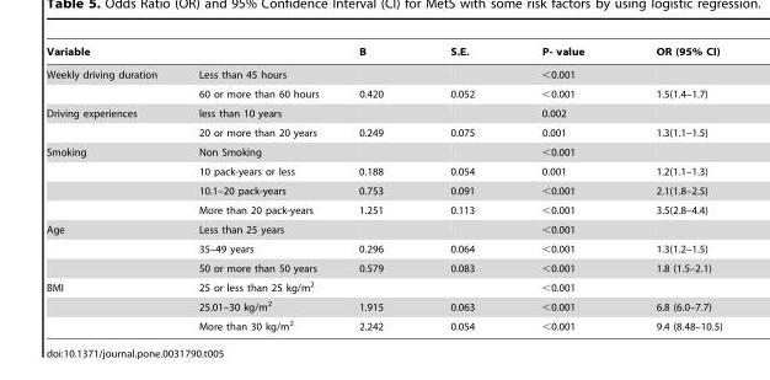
<table><thead><tr><td>Variable</td><td></td><td>B</td><td>S.E.</td><td>P- value</td><td>OR (95% CI)</td></tr></thead><tbody><tr><td rowspan="2">Weekly driving duration</td><td>Less than 45 hours</td><td></td><td></td><td>&lt;0.001</td><td></td></tr><tr><td>60 or more than 60 hours</td><td>0.420</td><td>0.052</td><td>&lt;0.001</td><td>1.5(1.4–1.7)</td></tr><tr><td rowspan="2">Driving experiences</td><td>less than 10 years</td><td></td><td></td><td>0.002</td><td></td></tr><tr><td>20 or more than 20 years</td><td>0.249</td><td>0.075</td><td>0.001</td><td>1.3(1.1–1.5)</td></tr><tr><td rowspan="4">Smoking</td><td>Non Smoking</td><td></td><td></td><td>&lt;0.001</td><td></td></tr><tr><td>10 pack-years or less</td><td>0.188</td><td>0.054</td><td>0.001</td><td>1.2(1.1–1.3)</td></tr><tr><td>10.1–20 pack-years</td><td>0.753</td><td>0.091</td><td>&lt;0.001</td><td>2.1(1.8–2.5)</td></tr><tr><td>More than 20 pack-years</td><td>1.251</td><td>0.113</td><td>&lt;0.001</td><td>3.5(2.8–4.4)</td></tr><tr><td rowspan="3">Age</td><td>Less than 25 years</td><td></td><td></td><td>&lt;0.001</td><td></td></tr><tr><td>35–49 years</td><td>0.296</td><td>0.064</td><td>&lt;0.001</td><td>1.3(1.2–1.5)</td></tr><tr><td>50 or more than 50 years</td><td>0.579</td><td>0.083</td><td>&lt;0.001</td><td>1.8 (1.5–2.1)</td></tr><tr><td rowspan="3">BMI</td><td>25 or less than 25 kg/m<sup>2</sup></td><td></td><td></td><td>&lt;0.001</td><td></td></tr><tr><td>25.01–30 kg/m<sup>2</sup></td><td>1.915</td><td>0.063</td><td>&lt;0.001</td><td>6.8 (6.0–7.7)</td></tr><tr><td>More than 30 kg/m<sup>2</sup></td><td>2.242</td><td>0.054</td><td>&lt;0.001</td><td>9.4 (8.48–10.5)</td></tr></tbody></table>